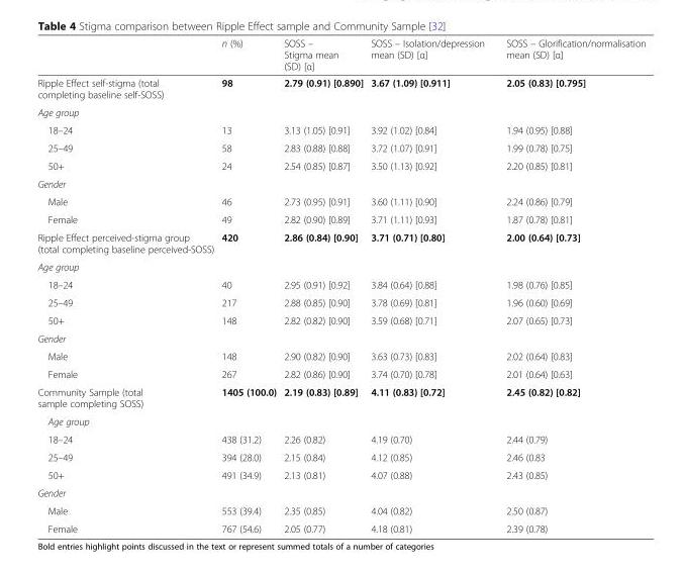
<table><thead><tr><td></td><td>n (%)</td><td>SOSS – Stigma mean (SD) [α]</td><td>SOSS – Isolation/depression mean (SD) [α]</td><td>SOSS – Glorification/normalisation mean (SD) [α]</td></tr></thead><tbody><tr><td>Ripple Effect self-stigma (total completing baseline self-SOSS)</td><td>98</td><td>2.79 (0.91) [0.890]</td><td>3.67 (1.09) [0.911]</td><td>2.05 (0.83) [0.795]</td></tr><tr><td colspan="5">Age group</td></tr><tr><td>18–24</td><td>13</td><td>3.13 (1.05) [0.91]</td><td>3.92 (1.02) [0.84]</td><td>1.94 (0.95) [0.88]</td></tr><tr><td>25–49</td><td>58</td><td>2.83 (0.88) [0.88]</td><td>3.72 (1.07) [0.91]</td><td>1.99 (0.78) [0.75]</td></tr><tr><td>50+</td><td>24</td><td>2.54 (0.85) [0.87]</td><td>3.50 (1.13) [0.92]</td><td>2.20 (0.85) [0.81]</td></tr><tr><td colspan="5">Gender</td></tr><tr><td>Male</td><td>46</td><td>2.73 (0.95) [0.91]</td><td>3.60 (1.11) [0.90]</td><td>2.24 (0.86) [0.79]</td></tr><tr><td>Female</td><td>49</td><td>2.82 (0.90) [0.89]</td><td>3.71 (1.11) [0.93]</td><td>1.87 (0.78) [0.81]</td></tr><tr><td>Ripple Effect perceived-stigma group (total completing baseline perceived-SOSS)</td><td>420</td><td>2.86 (0.84) [0.90]</td><td>3.71 (0.71) [0.80]</td><td>2.00 (0.64) [0.73]</td></tr><tr><td colspan="5">Age group</td></tr><tr><td>18–24</td><td>40</td><td>2.95 (0.91) [0.92]</td><td>3.84 (0.64) [0.88]</td><td>1.98 (0.76) [0.85]</td></tr><tr><td>25–49</td><td>217</td><td>2.88 (0.85) [0.90]</td><td>3.78 (0.69) [0.81]</td><td>1.96 (0.60) [0.69]</td></tr><tr><td>50+</td><td>148</td><td>2.82 (0.82) [0.90]</td><td>3.59 (0.68) [0.71]</td><td>2.07 (0.65) [0.73]</td></tr><tr><td colspan="5">Gender</td></tr><tr><td>Male</td><td>148</td><td>2.90 (0.82) [0.90]</td><td>3.63 (0.73) [0.83]</td><td>2.02 (0.64) [0.83]</td></tr><tr><td>Female</td><td>267</td><td>2.82 (0.86) [0.90]</td><td>3.74 (0.70) [0.78]</td><td>2.01 (0.64) [0.63]</td></tr><tr><td>Community Sample (total sample completing SOSS)</td><td>1405 (100.0)</td><td>2.19 (0.83) [0.89]</td><td>4.11 (0.83) [0.72]</td><td>2.45 (0.82) [0.82]</td></tr><tr><td colspan="5">Age group</td></tr><tr><td>18–24</td><td>438 (31.2)</td><td>2.26 (0.82)</td><td>4.19 (0.70)</td><td>2.44 (0.79)</td></tr><tr><td>25–49</td><td>394 (28.0)</td><td>2.15 (0.84)</td><td>4.12 (0.85)</td><td>2.46 (0.83</td></tr><tr><td>50+</td><td>491 (34.9)</td><td>2.13 (0.81)</td><td>4.07 (0.88)</td><td>2.43 (0.85)</td></tr><tr><td colspan="5">Gender</td></tr><tr><td>Male</td><td>553 (39.4)</td><td>2.35 (0.85)</td><td>4.04 (0.82)</td><td>2.50 (0.87)</td></tr><tr><td>Female</td><td>767 (54.6)</td><td>2.05 (0.77)</td><td>4.18 (0.81)</td><td>2.39 (0.78)</td></tr></tbody></table>